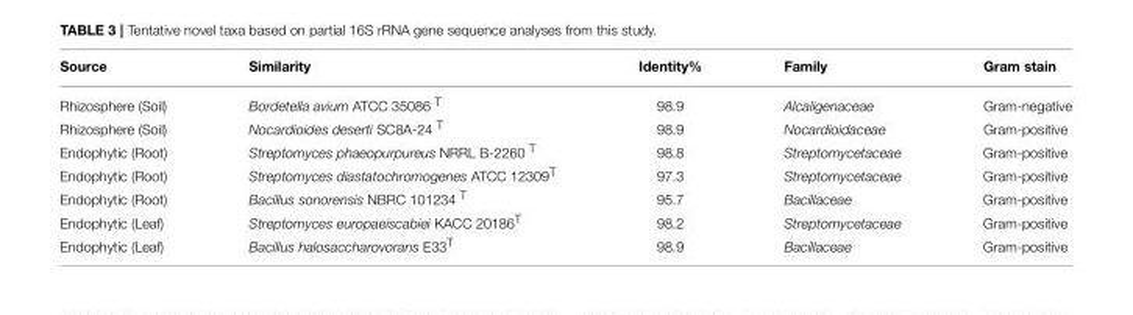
<table><thead><tr><td>Source</td><td>Similarity</td><td>Identity%</td><td>Family</td><td>Gram stain</td></tr></thead><tbody><tr><td>Rhizosphere (Soil)</td><td>Bordetella avium ATCC 35086 <sup>T</sup></td><td>98.9</td><td>Alcaligenaceae</td><td>Gram-negative</td></tr><tr><td>Rhizosphere (Soil)</td><td>Nocardioides deserti SC8A-24 <sup>T</sup></td><td>98.9</td><td>Nocardioidaceae</td><td>Gram-positive</td></tr><tr><td>Endophytic (Root)</td><td>Streptomyces phaeopurpureus NRRL B-2260 <sup>T</sup></td><td>98.8</td><td>Streptomycetaceae</td><td>Gram-positive</td></tr><tr><td>Endophytic (Root)</td><td>Streptomyces diastatochromogenes ATCC 12309<sup>T</sup></td><td>97.3</td><td>Streptomycetaceae</td><td>Gram-positive</td></tr><tr><td>Endophytic (Root)</td><td>Bacillus sonorensis NBRC 101234 <sup>T</sup></td><td>95.7</td><td>Bacillaceae</td><td>Gram-positive</td></tr><tr><td>Endophytic (Leaf)</td><td>Streptomyces europaeiscabiei KACC 20186<sup>T</sup></td><td>98.2</td><td>Streptomycetaceae</td><td>Gram-positive</td></tr><tr><td>Endophytic (Leaf)</td><td>Bacillus halosaccharovorans E33<sup>T</sup></td><td>98.9</td><td>Bacillaceae</td><td>Gram-positive</td></tr></tbody></table>